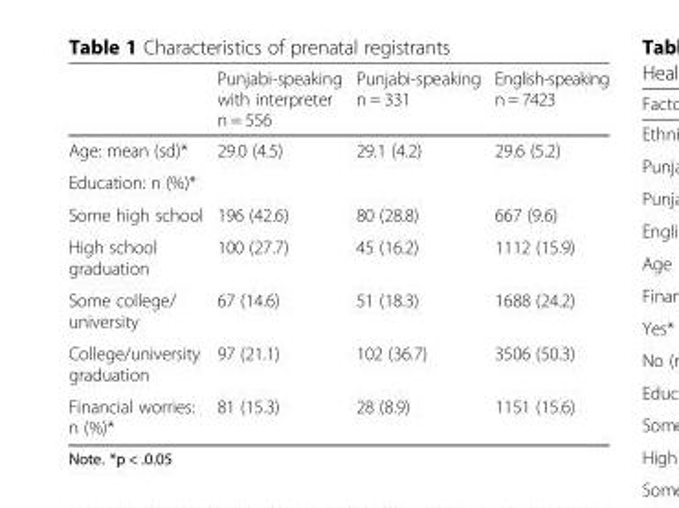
<table><thead><tr><td></td><td>Punjabi-speaking with interpreter n = 556</td><td>Punjabi-speaking n = 331</td><td>English-speaking n = 7423</td></tr></thead><tbody><tr><td>Age: mean (sd)*</td><td>29.0 (4.5)</td><td>29.1 (4.2)</td><td>29.6 (5.2)</td></tr><tr><td colspan="4">Education: n (%)*</td></tr><tr><td>Some high school</td><td>196 (42.6)</td><td>80 (28.8)</td><td>667 (9.6)</td></tr><tr><td>High school graduation</td><td>100 (27.7)</td><td>45 (16.2)</td><td>1112 (15.9)</td></tr><tr><td>Some college/ university</td><td>67 (14.6)</td><td>51 (18.3)</td><td>1688 (24.2)</td></tr><tr><td>College/university graduation</td><td>97 (21.1)</td><td>102 (36.7)</td><td>3506 (50.3)</td></tr><tr><td>Financial worries: n (%)*</td><td>81 (15.3)</td><td>28 (8.9)</td><td>1151 (15.6)</td></tr></tbody></table>